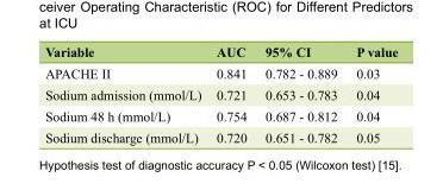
<table><thead><tr><td>Variable</td><td>AUC</td><td>95% CI</td><td>P value</td></tr></thead><tbody><tr><td>APACHE II</td><td>0.841</td><td>0.782 - 0.889</td><td>0.03</td></tr><tr><td>Sodium admission (mmol/L)</td><td>0.721</td><td>0.653 - 0.783</td><td>0.04</td></tr><tr><td>Sodium 48 h (mmol/L)</td><td>0.754</td><td>0.687 - 0.812</td><td>0.04</td></tr><tr><td>Sodium discharge (mmol/L)</td><td>0.720</td><td>0.651 - 0.782</td><td>0.05</td></tr></tbody></table>